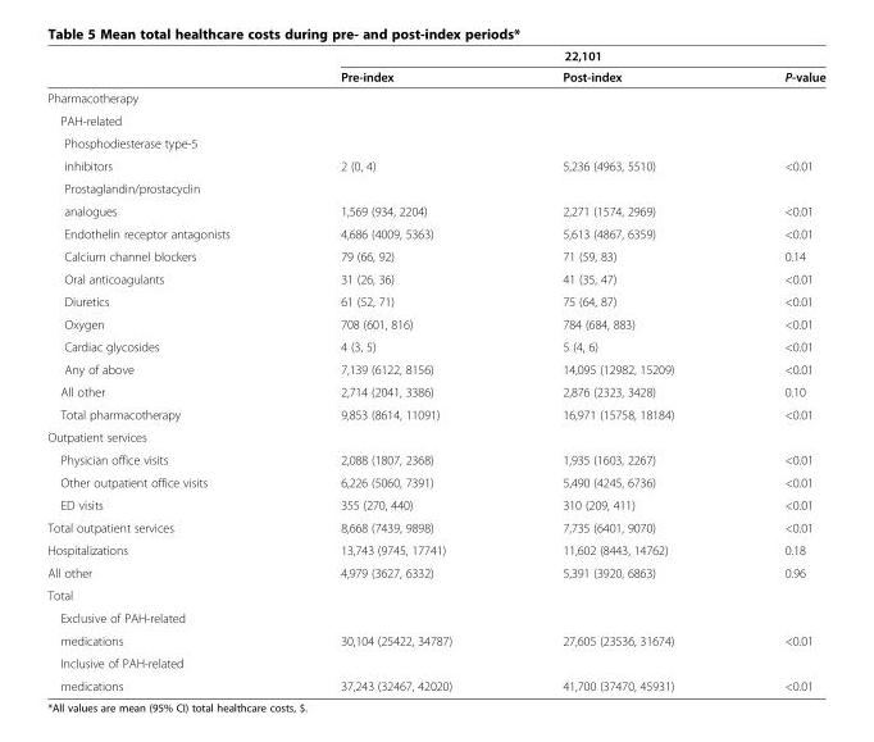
<table><thead><tr><td rowspan="2"></td><td rowspan="2">Pre-index</td><td rowspan="2">22,101 Post-index</td><td rowspan="2">P-value</td></tr><tr></tr></thead><tbody><tr><td colspan="4">Pharmacotherapy</td></tr><tr><td colspan="4">PAH-related</td></tr><tr><td colspan="4">Phosphodiesterase type-5</td></tr><tr><td>inhibitors</td><td>2 (0, 4)</td><td>5,236 (4963, 5510)</td><td>&lt;0.01</td></tr><tr><td colspan="4">Prostaglandin/prostacyclin</td></tr><tr><td>analogues</td><td>1,569 (934, 2204)</td><td>2,271 (1574, 2969)</td><td>&lt;0.01</td></tr><tr><td>Endothelin receptor antagonists</td><td>4,686 (4009, 5363)</td><td>5,613 (4867, 6359)</td><td>&lt;0.01</td></tr><tr><td>Calcium channel blockers</td><td>79 (66, 92)</td><td>71 (59, 83)</td><td>0.14</td></tr><tr><td>Oral anticoagulants</td><td>31 (26, 36)</td><td>41 (35, 47)</td><td>&lt;0.01</td></tr><tr><td>Diuretics</td><td>61 (52, 71)</td><td>75 (64, 87)</td><td>&lt;0.01</td></tr><tr><td>Oxygen</td><td>708 (601, 816)</td><td>784 (684, 883)</td><td>&lt;0.01</td></tr><tr><td>Cardiac glycosides</td><td>4 (3, 5)</td><td>5 (4, 6)</td><td>&lt;0.01</td></tr><tr><td>Any of above</td><td>7,139 (6122, 8156)</td><td>14,095 (12982, 15209)</td><td>&lt;0.01</td></tr><tr><td>All other</td><td>2,714 (2041, 3386)</td><td>2,876 (2323, 3428)</td><td>0.10</td></tr><tr><td>Total pharmacotherapy</td><td>9,853 (8614, 11091)</td><td>16,971 (15758, 18184)</td><td>&lt;0.01</td></tr><tr><td colspan="4">Outpatient services</td></tr><tr><td>Physician office visits</td><td>2,088 (1807, 2368)</td><td>1,935 (1603, 2267)</td><td>&lt;0.01</td></tr><tr><td>Other outpatient office visits</td><td>6,226 (5060, 7391)</td><td>5,490 (4245, 6736)</td><td>&lt;0.01</td></tr><tr><td>ED visits</td><td>355 (270, 440)</td><td>310 (209, 411)</td><td>&lt;0.01</td></tr><tr><td>Total outpatient services</td><td>8,668 (7439, 9898)</td><td>7,735 (6401, 9070)</td><td>&lt;0.01</td></tr><tr><td>Hospitalizations</td><td>13,743 (9745, 17741)</td><td>11,602 (8443, 14762)</td><td>0.18</td></tr><tr><td>All other</td><td>4,979 (3627, 6332)</td><td>5,391 (3920, 6863)</td><td>0.96</td></tr><tr><td colspan="4">Total</td></tr><tr><td colspan="4">Exclusive of PAH-related</td></tr><tr><td>medications</td><td>30,104 (25422, 34787)</td><td>27,605 (23536, 31674)</td><td>&lt;0.01</td></tr><tr><td colspan="4">Inclusive of PAH-related</td></tr><tr><td>medications</td><td>37,243 (32467, 42020)</td><td>41,700 (37470, 45931)</td><td>&lt;0.01</td></tr></tbody></table>